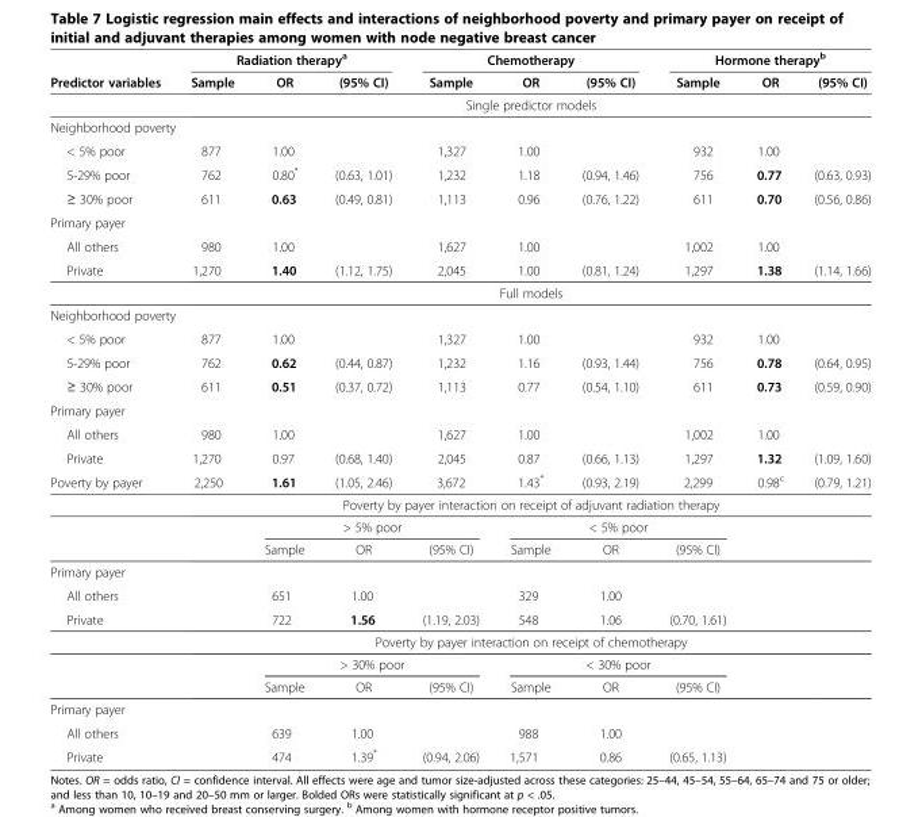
<table><thead><tr><td rowspan="2">Predictor variables</td><td colspan="3">Radiation therapy<sup>a</sup></td><td colspan="3">Chemotherapy</td><td colspan="3">Hormone therapy<sup>b</sup></td></tr><tr><td>Sample</td><td>OR</td><td>(95% CI)</td><td>Sample</td><td>OR</td><td>(95% CI)</td><td>Sample</td><td>OR</td><td>(95% CI)</td></tr></thead><tbody><tr><td></td><td colspan="9">Single predictor models</td></tr><tr><td colspan="10">Neighborhood poverty</td></tr><tr><td>&lt; 5% poor</td><td>877</td><td>1.00</td><td></td><td>1,327</td><td>1.00</td><td></td><td>932</td><td>1.00</td><td></td></tr><tr><td>5-29% poor</td><td>762</td><td>0.80*</td><td>(0.63, 1.01)</td><td>1,232</td><td>1.18</td><td>(0.94, 1.46)</td><td>756</td><td>0.77</td><td>(0.63, 0.93)</td></tr><tr><td>≥ 30% poor</td><td>611</td><td>0.63</td><td>(0.49, 0.81)</td><td>1,113</td><td>0.96</td><td>(0.76, 1.22)</td><td>611</td><td>0.70</td><td>(0.56, 0.86)</td></tr><tr><td colspan="10">Primary payer</td></tr><tr><td>All others</td><td>980</td><td>1.00</td><td></td><td>1,627</td><td>1.00</td><td></td><td>1,002</td><td>1.00</td><td></td></tr><tr><td rowspan="2">Private</td><td>1,270</td><td>1.40</td><td>(1.12, 1.75)</td><td>2,045</td><td>1.00</td><td>(0.81, 1.24)</td><td>1,297</td><td>1.38</td><td>(1.14, 1.66)</td></tr><tr><td colspan="9">Full models</td></tr><tr><td colspan="10">Neighborhood poverty</td></tr><tr><td>&lt; 5% poor</td><td>877</td><td>1.00</td><td></td><td>1,327</td><td>1.00</td><td></td><td>932</td><td>1.00</td><td></td></tr><tr><td>5-29% poor</td><td>762</td><td>0.62</td><td>(0.44, 0.87)</td><td>1,232</td><td>1.16</td><td>(0.93, 1.44)</td><td>756</td><td>0.78</td><td>(0.64, 0.95)</td></tr><tr><td>≥ 30% poor</td><td>611</td><td>0.51</td><td>(0.37, 0.72)</td><td>1,113</td><td>0.77</td><td>(0.54, 1.10)</td><td>611</td><td>0.73</td><td>(0.59, 0.90)</td></tr><tr><td colspan="10">Primary payer</td></tr><tr><td>All others</td><td>980</td><td>1.00</td><td></td><td>1,627</td><td>1.00</td><td></td><td>1,002</td><td>1.00</td><td></td></tr><tr><td>Private</td><td>1,270</td><td>0.97</td><td>(0.68, 1.40)</td><td>2,045</td><td>0.87</td><td>(0.66, 1.13)</td><td>1,297</td><td>1.32</td><td>(1.09, 1.60)</td></tr><tr><td rowspan="4">Poverty by payer</td><td>2,250</td><td>1.61</td><td>(1.05, 2.46)</td><td>3,672</td><td>1.43*</td><td>(0.93, 2.19)</td><td>2,299</td><td>0.98<sup>c</sup></td><td>(0.79, 1.21)</td></tr><tr><td colspan="9">Poverty by payer interaction on receipt of adjuvant radiation therapy</td></tr><tr><td></td><td colspan="3">&gt; 5% poor</td><td colspan="3">&lt; 5% poor</td><td></td><td></td></tr><tr><td></td><td>Sample</td><td>OR</td><td>(95% CI)</td><td>Sample</td><td>OR</td><td>(95% CI)</td><td></td><td></td></tr><tr><td colspan="10">Primary payer</td></tr><tr><td>All others</td><td></td><td>651</td><td>1.00</td><td></td><td>329</td><td>1.00</td><td></td><td></td><td></td></tr><tr><td rowspan="4">Private</td><td></td><td>722</td><td>1.56</td><td>(1.19, 2.03)</td><td>548</td><td>1.06</td><td>(0.70, 1.61)</td><td></td><td></td></tr><tr><td colspan="9">Poverty by payer interaction on receipt of chemotherapy</td></tr><tr><td></td><td colspan="3">&gt; 30% poor</td><td colspan="3">&lt; 30% poor</td><td></td><td></td></tr><tr><td></td><td>Sample</td><td>OR</td><td>(95% CI)</td><td>Sample</td><td>OR</td><td>(95% CI)</td><td></td><td></td></tr><tr><td colspan="10">Primary payer</td></tr><tr><td>All others</td><td></td><td>639</td><td>1.00</td><td></td><td>988</td><td>1.00</td><td></td><td></td><td></td></tr><tr><td>Private</td><td></td><td>474</td><td>1.39*</td><td>(0.94, 2.06)</td><td>1,571</td><td>0.86</td><td>(0.65, 1.13)</td><td></td><td></td></tr></tbody></table>